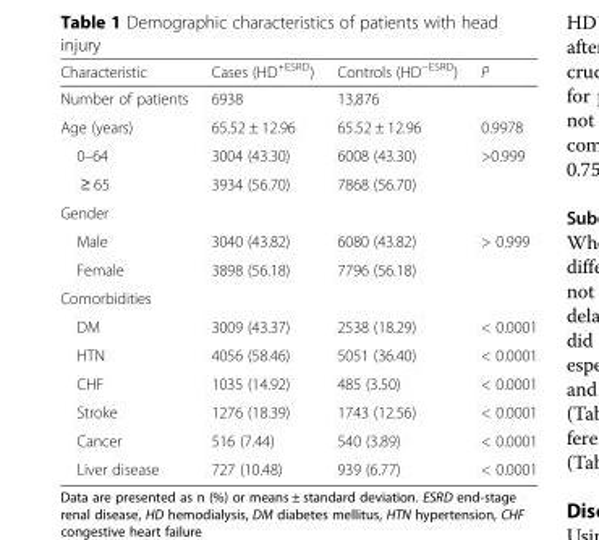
<table><thead><tr><td>Characteristic</td><td>Cases (HD<sup>+ESRD</sup>)</td><td>Controls (HD<sup>−ESRD</sup>)</td><td>P</td></tr></thead><tbody><tr><td>Number of patients</td><td>6938</td><td>13,876</td><td></td></tr><tr><td>Age (years)</td><td>65.52 ± 12.96</td><td>65.52 ± 12.96</td><td>0.9978</td></tr><tr><td>0–64</td><td>3004 (43.30)</td><td>6008 (43.30)</td><td>&gt;0.999</td></tr><tr><td>≥ 65</td><td>3934 (56.70)</td><td>7868 (56.70)</td><td></td></tr><tr><td colspan="4">Gender</td></tr><tr><td>Male</td><td>3040 (43.82)</td><td>6080 (43.82)</td><td>&gt; 0.999</td></tr><tr><td>Female</td><td>3898 (56.18)</td><td>7796 (56.18)</td><td></td></tr><tr><td colspan="4">Comorbidities</td></tr><tr><td>DM</td><td>3009 (43.37)</td><td>2538 (18.29)</td><td>&lt; 0.0001</td></tr><tr><td>HTN</td><td>4056 (58.46)</td><td>5051 (36.40)</td><td>&lt; 0.0001</td></tr><tr><td>CHF</td><td>1035 (14.92)</td><td>485 (3.50)</td><td>&lt; 0.0001</td></tr><tr><td>Stroke</td><td>1276 (18.39)</td><td>1743 (12.56)</td><td>&lt; 0.0001</td></tr><tr><td>Cancer</td><td>516 (7.44)</td><td>540 (3.89)</td><td>&lt; 0.0001</td></tr><tr><td>Liver disease</td><td>727 (10.48)</td><td>939 (6.77)</td><td>&lt; 0.0001</td></tr></tbody></table>